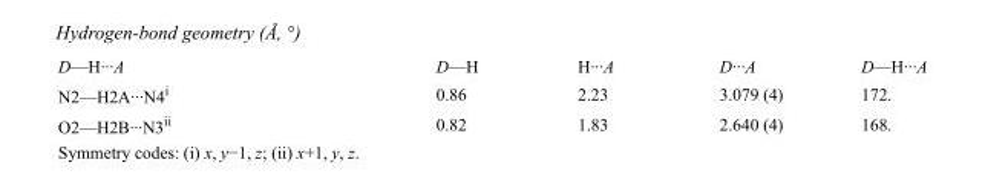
<table><tbody><tr><td>D—H···A</td><td>D—H</td><td>H···A</td><td>D···A</td><td>D—H···A</td></tr><tr><td>N2—H2A···N4<sup>i</sup></td><td>0.86</td><td>2.23</td><td>3.079 (4)</td><td>172.</td></tr><tr><td>O2—H2B···N3<sup>ii</sup></td><td>0.82</td><td>1.83</td><td>2.640 (4)</td><td>168.</td></tr></tbody></table>